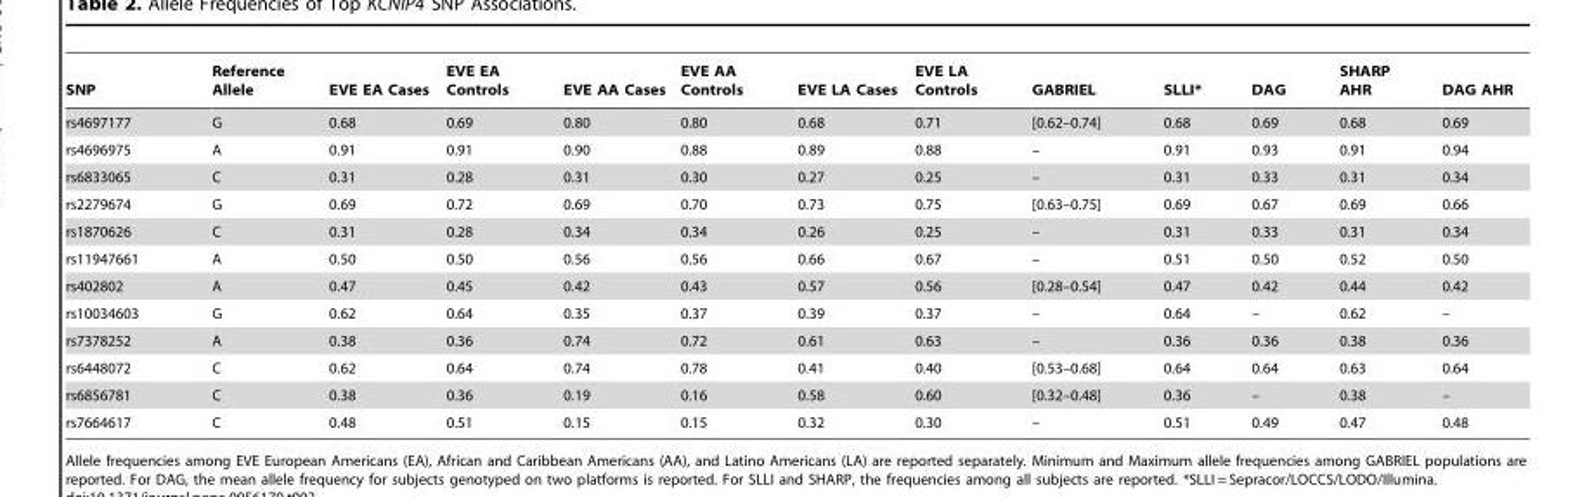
<table><thead><tr><td>SNP</td><td>Reference Allele</td><td>EVE EA Cases</td><td>EVE EA Controls</td><td>EVE AA Cases</td><td>EVE AA Controls</td><td>EVE LA Cases</td><td>EVE LA Controls</td><td>GABRIEL</td><td>SLLI*</td><td>DAG</td><td>SHARP AHR</td><td>DAG AHR</td></tr></thead><tbody><tr><td>rs4697177</td><td>G</td><td>0.68</td><td>0.69</td><td>0.80</td><td>0.80</td><td>0.68</td><td>0.71</td><td>[0.62–0.74]</td><td>0.68</td><td>0.69</td><td>0.68</td><td>0.69</td></tr><tr><td>rs4696975</td><td>A</td><td>0.91</td><td>0.91</td><td>0.90</td><td>0.88</td><td>0.89</td><td>0.88</td><td>–</td><td>0.91</td><td>0.93</td><td>0.91</td><td>0.94</td></tr><tr><td>rs6833065</td><td>C</td><td>0.31</td><td>0.28</td><td>0.31</td><td>0.30</td><td>0.27</td><td>0.25</td><td>–</td><td>0.31</td><td>0.33</td><td>0.31</td><td>0.34</td></tr><tr><td>rs2279674</td><td>G</td><td>0.69</td><td>0.72</td><td>0.69</td><td>0.70</td><td>0.73</td><td>0.75</td><td>[0.63–0.75]</td><td>0.69</td><td>0.67</td><td>0.69</td><td>0.66</td></tr><tr><td>rs1870626</td><td>C</td><td>0.31</td><td>0.28</td><td>0.34</td><td>0.34</td><td>0.26</td><td>0.25</td><td>–</td><td>0.31</td><td>0.33</td><td>0.31</td><td>0.34</td></tr><tr><td>rs11947661</td><td>A</td><td>0.50</td><td>0.50</td><td>0.56</td><td>0.56</td><td>0.66</td><td>0.67</td><td>–</td><td>0.51</td><td>0.50</td><td>0.52</td><td>0.50</td></tr><tr><td>rs402802</td><td>A</td><td>0.47</td><td>0.45</td><td>0.42</td><td>0.43</td><td>0.57</td><td>0.56</td><td>[0.28–0.54]</td><td>0.47</td><td>0.42</td><td>0.44</td><td>0.42</td></tr><tr><td>rs10034603</td><td>G</td><td>0.62</td><td>0.64</td><td>0.35</td><td>0.37</td><td>0.39</td><td>0.37</td><td>–</td><td>0.64</td><td>–</td><td>0.62</td><td>–</td></tr><tr><td>rs7378252</td><td>A</td><td>0.38</td><td>0.36</td><td>0.74</td><td>0.72</td><td>0.61</td><td>0.63</td><td>–</td><td>0.36</td><td>0.36</td><td>0.38</td><td>0.36</td></tr><tr><td>rs6448072</td><td>C</td><td>0.62</td><td>0.64</td><td>0.74</td><td>0.78</td><td>0.41</td><td>0.40</td><td>[0.53–0.68]</td><td>0.64</td><td>0.64</td><td>0.63</td><td>0.64</td></tr><tr><td>rs6856781</td><td>C</td><td>0.38</td><td>0.36</td><td>0.19</td><td>0.16</td><td>0.58</td><td>0.60</td><td>[0.32–0.48]</td><td>0.36</td><td>–</td><td>0.38</td><td>–</td></tr><tr><td>rs7664617</td><td>C</td><td>0.48</td><td>0.51</td><td>0.15</td><td>0.15</td><td>0.32</td><td>0.30</td><td>–</td><td>0.51</td><td>0.49</td><td>0.47</td><td>0.48</td></tr></tbody></table>